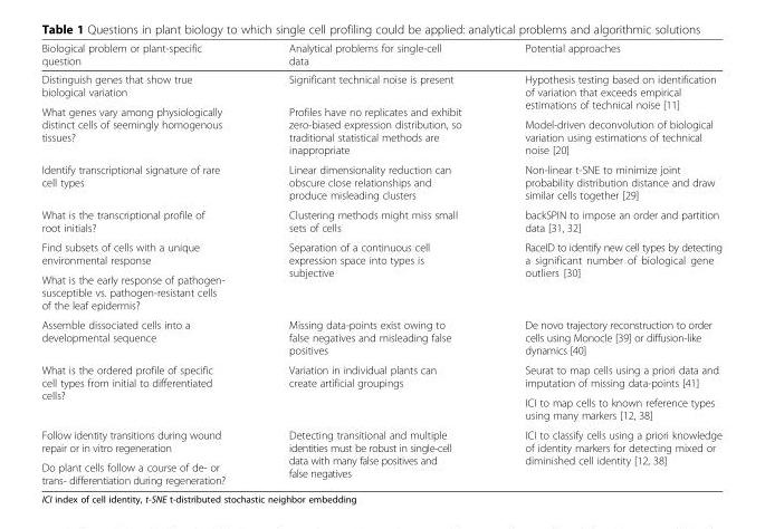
<table><thead><tr><td>Biological problem or plant-specific question</td><td>Analytical problems for single-cell data</td><td>Potential approaches</td></tr></thead><tbody><tr><td>Distinguish genes that show true biological variation</td><td>Significant technical noise is present</td><td rowspan="2">Hypothesis testing based on identification of variation that exceeds empirical estimations of technical noise [11]</td></tr><tr><td rowspan="2">What genes vary among physiologically distinct cells of seemingly homogenous tissues?</td><td rowspan="2">Profiles have no replicates and exhibit zero-biased expression distribution, so traditional statistical methods are inappropriate</td></tr><tr><td>Model-driven deconvolution of biological variation using estimations of technical noise [20]</td></tr><tr><td>Identify transcriptional signature of rare cell types</td><td>Linear dimensionality reduction can obscure close relationships and produce misleading clusters</td><td>Non-linear t-SNE to minimize joint probability distribution distance and draw similar cells together [29]</td></tr><tr><td>What is the transcriptional profile of root initials?</td><td>Clustering methods might miss small sets of cells</td><td>backSPIN to impose an order and partition data [31, 32]</td></tr><tr><td>Find subsets of cells with a unique environmental response</td><td rowspan="2">Separation of a continuous cell expression space into types is subjective</td><td rowspan="2">RaceID to identify new cell types by detecting a significant number of biological gene outliers [30]</td></tr><tr><td>What is the early response of pathogen- susceptible vs. pathogen-resistant cells of the leaf epidermis?</td></tr><tr><td>Assemble dissociated cells into a developmental sequence</td><td>Missing data-points exist owing to false negatives and misleading false positives</td><td>De novo trajectory reconstruction to order cells using Monocle [39] or diffusion-like dynamics [40]</td></tr><tr><td rowspan="2">What is the ordered profile of specific cell types from initial to differentiated cells?</td><td rowspan="2">Variation in individual plants can create artificial groupings</td><td>Seurat to map cells using a priori data and imputation of missing data-points [41]</td></tr><tr><td>ICI to map cells to known reference types using many markers [12, 38]</td></tr><tr><td>Follow identity transitions during wound repair or in vitro regeneration</td><td rowspan="2">Detecting transitional and multiple identities must be robust in single-cell data with many false positives and false negatives</td><td rowspan="2">ICI to classify cells using a priori knowledge of identity markers for detecting mixed or diminished cell identity [12, 38]</td></tr><tr><td>Do plant cells follow a course of de- or trans- differentiation during regeneration?</td></tr></tbody></table>